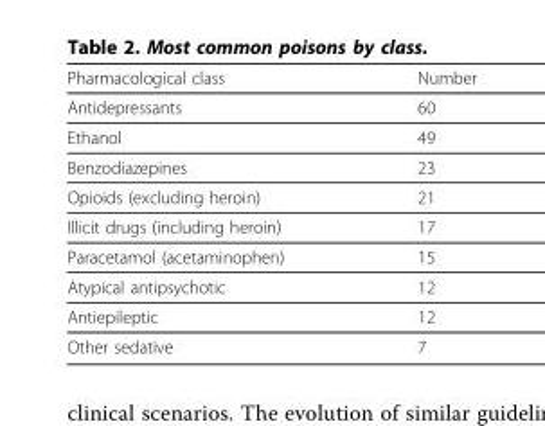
<table><tbody><tr><td>Pharmacological class</td><td>Number</td></tr><tr><td>Antidepressants</td><td>60</td></tr><tr><td>Ethanol</td><td>49</td></tr><tr><td>Benzodiazepines</td><td>23</td></tr><tr><td>Opioids (excluding heroin)</td><td>21</td></tr><tr><td>Illicit drugs (including heroin)</td><td>17</td></tr><tr><td>Paracetamol (acetaminophen)</td><td>15</td></tr><tr><td>Atypical antipsychotic</td><td>12</td></tr><tr><td>Antiepileptic</td><td>12</td></tr><tr><td>Other sedative</td><td>7</td></tr></tbody></table>